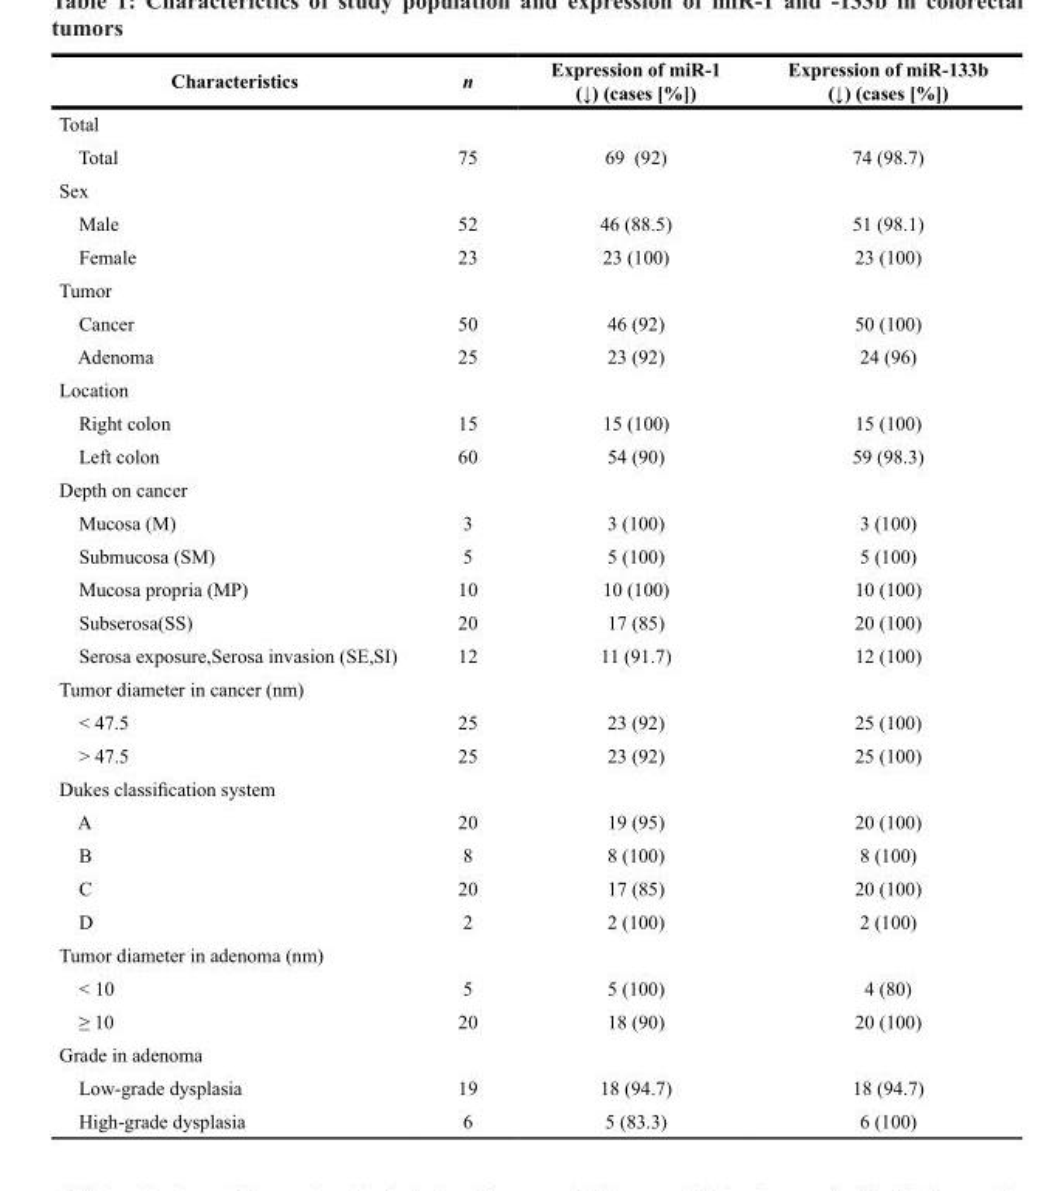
<table><thead><tr><td>Characteristics</td><td>n</td><td>Expression of miR-1 (↓) (cases [%])</td><td>Expression of miR-133b (↓) (cases [%])</td></tr></thead><tbody><tr><td colspan="4">Total</td></tr><tr><td>Total</td><td>75</td><td>69 (92)</td><td>74 (98.7)</td></tr><tr><td colspan="4">Sex</td></tr><tr><td>Male</td><td>52</td><td>46 (88.5)</td><td>51 (98.1)</td></tr><tr><td>Female</td><td>23</td><td>23 (100)</td><td>23 (100)</td></tr><tr><td colspan="4">Tumor</td></tr><tr><td>Cancer</td><td>50</td><td>46 (92)</td><td>50 (100)</td></tr><tr><td>Adenoma</td><td>25</td><td>23 (92)</td><td>24 (96)</td></tr><tr><td colspan="4">Location</td></tr><tr><td>Right colon</td><td>15</td><td>15 (100)</td><td>15 (100)</td></tr><tr><td>Left colon</td><td>60</td><td>54 (90)</td><td>59 (98.3)</td></tr><tr><td colspan="4">Depth on cancer</td></tr><tr><td>Mucosa (M)</td><td>3</td><td>3 (100)</td><td>3 (100)</td></tr><tr><td>Submucosa (SM)</td><td>5</td><td>5 (100)</td><td>5 (100)</td></tr><tr><td>Mucosa propria (MP)</td><td>10</td><td>10 (100)</td><td>10 (100)</td></tr><tr><td>Subserosa(SS)</td><td>20</td><td>17 (85)</td><td>20 (100)</td></tr><tr><td>Serosa exposure,Serosa invasion (SE,SI)</td><td>12</td><td>11 (91.7)</td><td>12 (100)</td></tr><tr><td colspan="4">Tumor diameter in cancer (nm)</td></tr><tr><td>&lt; 47.5</td><td>25</td><td>23 (92)</td><td>25 (100)</td></tr><tr><td>&gt; 47.5</td><td>25</td><td>23 (92)</td><td>25 (100)</td></tr><tr><td colspan="4">Dukes classification system</td></tr><tr><td>A</td><td>20</td><td>19 (95)</td><td>20 (100)</td></tr><tr><td>B</td><td>8</td><td>8 (100)</td><td>8 (100)</td></tr><tr><td>C</td><td>20</td><td>17 (85)</td><td>20 (100)</td></tr><tr><td>D</td><td>2</td><td>2 (100)</td><td>2 (100)</td></tr><tr><td colspan="4">Tumor diameter in adenoma (nm)</td></tr><tr><td>&lt; 10</td><td>5</td><td>5 (100)</td><td>4 (80)</td></tr><tr><td>≥ 10</td><td>20</td><td>18 (90)</td><td>20 (100)</td></tr><tr><td colspan="4">Grade in adenoma</td></tr><tr><td>Low-grade dysplasia</td><td>19</td><td>18 (94.7)</td><td>18 (94.7)</td></tr><tr><td>High-grade dysplasia</td><td>6</td><td>5 (83.3)</td><td>6 (100)</td></tr></tbody></table>